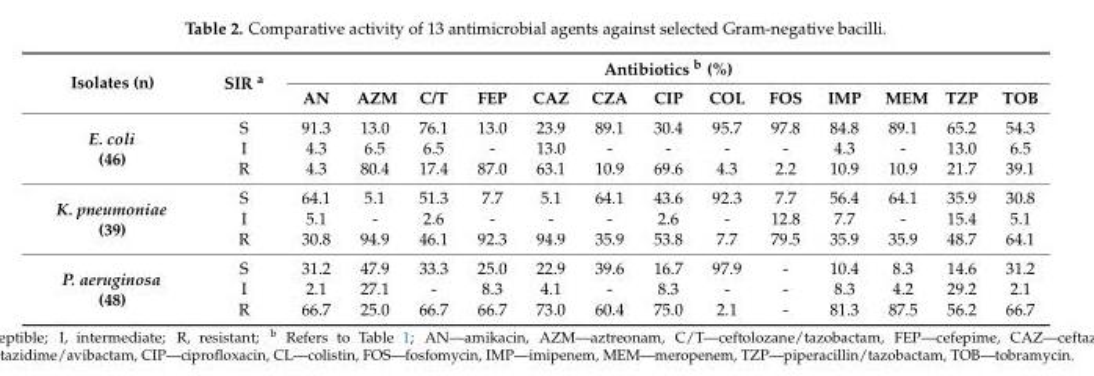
<table><thead><tr><td rowspan="2">Isolates (n)</td><td rowspan="2">SIR <sup>a</sup></td><td colspan="13">Antibiotics <sup>b</sup> (%)</td></tr><tr><td>AN</td><td>AZM</td><td>C/T</td><td>FEP</td><td>CAZ</td><td>CZA</td><td>CIP</td><td>COL</td><td>FOS</td><td>IMP</td><td>MEM</td><td>TZP</td><td>TOB</td></tr></thead><tbody><tr><td rowspan="3">E. coli (46)</td><td>S</td><td>91.3</td><td>13.0</td><td>76.1</td><td>13.0</td><td>23.9</td><td>89.1</td><td>30.4</td><td>95.7</td><td>97.8</td><td>84.8</td><td>89.1</td><td>65.2</td><td>54.3</td></tr><tr><td>I</td><td>4.3</td><td>6.5</td><td>6.5</td><td>-</td><td>13.0</td><td>-</td><td>-</td><td>-</td><td>-</td><td>4.3</td><td>-</td><td>13.0</td><td>6.5</td></tr><tr><td>R</td><td>4.3</td><td>80.4</td><td>17.4</td><td>87.0</td><td>63.1</td><td>10.9</td><td>69.6</td><td>4.3</td><td>2.2</td><td>10.9</td><td>10.9</td><td>21.7</td><td>39.1</td></tr><tr><td rowspan="3">K. pneumoniae (39)</td><td>S</td><td>64.1</td><td>5.1</td><td>51.3</td><td>7.7</td><td>5.1</td><td>64.1</td><td>43.6</td><td>92.3</td><td>7.7</td><td>56.4</td><td>64.1</td><td>35.9</td><td>30.8</td></tr><tr><td>I</td><td>5.1</td><td>-</td><td>2.6</td><td>-</td><td>-</td><td>-</td><td>2.6</td><td>-</td><td>12.8</td><td>7.7</td><td>-</td><td>15.4</td><td>5.1</td></tr><tr><td>R</td><td>30.8</td><td>94.9</td><td>46.1</td><td>92.3</td><td>94.9</td><td>35.9</td><td>53.8</td><td>7.7</td><td>79.5</td><td>35.9</td><td>35.9</td><td>48.7</td><td>64.1</td></tr><tr><td rowspan="3">P. aeruginosa (48)</td><td>S</td><td>31.2</td><td>47.9</td><td>33.3</td><td>25.0</td><td>22.9</td><td>39.6</td><td>16.7</td><td>97.9</td><td>-</td><td>10.4</td><td>8.3</td><td>14.6</td><td>31.2</td></tr><tr><td>I</td><td>2.1</td><td>27.1</td><td>-</td><td>8.3</td><td>4.1</td><td>-</td><td>8.3</td><td>-</td><td>-</td><td>8.3</td><td>4.2</td><td>29.2</td><td>2.1</td></tr><tr><td>R</td><td>66.7</td><td>25.0</td><td>66.7</td><td>66.7</td><td>73.0</td><td>60.4</td><td>75.0</td><td>2.1</td><td>-</td><td>81.3</td><td>87.5</td><td>56.2</td><td>66.7</td></tr></tbody></table>